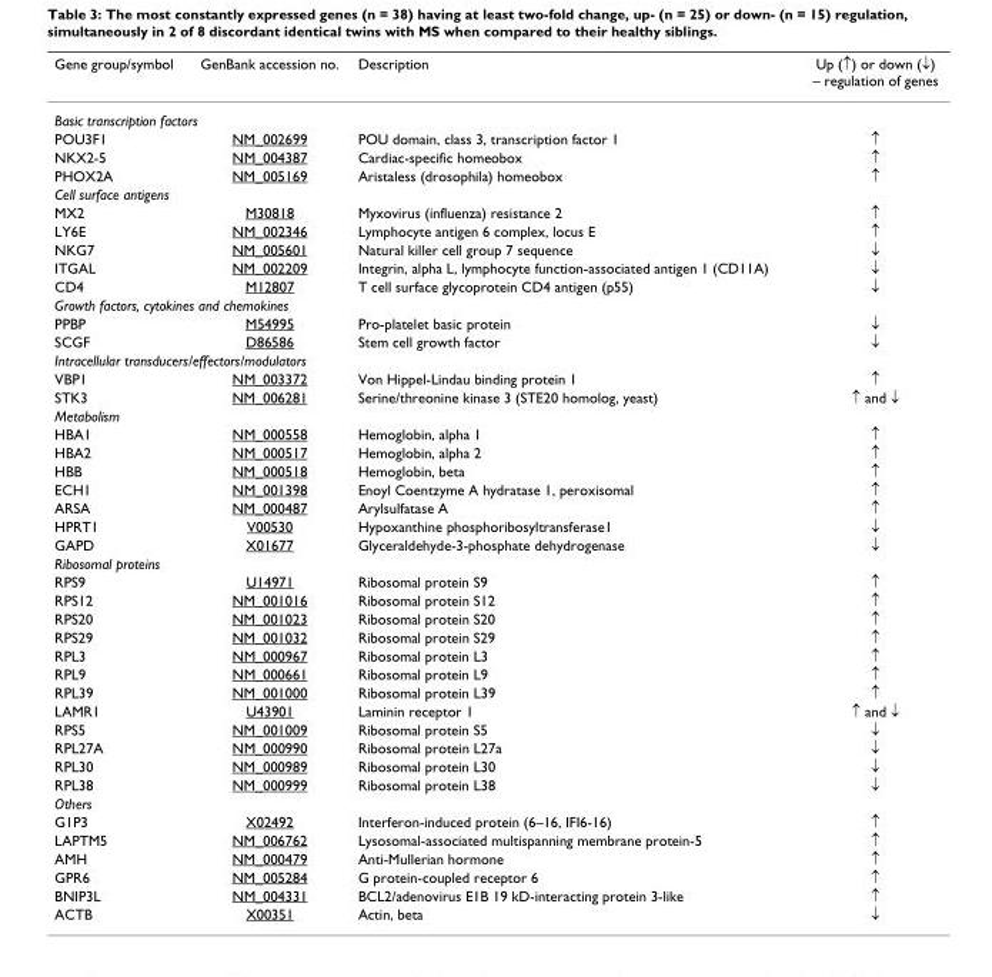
<table><thead><tr><td>Gene group/symbol</td><td>GenBank accession no.</td><td>Description</td><td>Up (↑) or down (↓) – regulation of genes</td></tr></thead><tbody><tr><td colspan="4">Basic transcription factors</td></tr><tr><td>POU3F1</td><td>NM_002699</td><td>POU domain, class 3, transcription factor 1</td><td>↑</td></tr><tr><td>NKX2-5</td><td>NM_004387</td><td>Cardiac-specific homeobox</td><td>↑</td></tr><tr><td>PHOX2A</td><td>NM_005169</td><td>Aristaless (drosophila) homeobox</td><td>↑</td></tr><tr><td colspan="4">Cell surface antigens</td></tr><tr><td>MX2</td><td>M30818</td><td>Myxovirus (influenza) resistance 2</td><td>↑</td></tr><tr><td>LY6E</td><td>NM_002346</td><td>Lymphocyte antigen 6 complex, locus E</td><td>↑</td></tr><tr><td>NKG7</td><td>NM_005601</td><td>Natural killer cell group 7 sequence</td><td>↓</td></tr><tr><td>ITGAL</td><td>NM_002209</td><td>Integrin, alpha L, lymphocyte function-associated antigen 1 (CD11A)</td><td>↓</td></tr><tr><td>CD4</td><td>M12807</td><td>T cell surface glycoprotein CD4 antigen (p55)</td><td>↓</td></tr><tr><td colspan="4">Growth factors, cytokines and chemokines</td></tr><tr><td>PPBP</td><td>M54995</td><td>Pro-platelet basic protein</td><td>↓</td></tr><tr><td>SCGF</td><td>D86586</td><td>Stem cell growth factor</td><td>↓</td></tr><tr><td colspan="4">Intracellular transducers/effectors/modulators</td></tr><tr><td>VBP1</td><td>NM_003372</td><td>Von Hippel-Lindau binding protein 1</td><td>↑</td></tr><tr><td>STK3</td><td>NM_006281</td><td>Serine/threonine kinase 3 (STE20 homolog, yeast)</td><td>↑ and ↓</td></tr><tr><td colspan="4">Metabolism</td></tr><tr><td>HBA1</td><td>NM_000558</td><td>Hemoglobin, alpha 1</td><td>↑</td></tr><tr><td>HBA2</td><td>NM_000517</td><td>Hemoglobin, alpha 2</td><td>↑</td></tr><tr><td>HBB</td><td>NM_000518</td><td>Hemoglobin, beta</td><td>↑</td></tr><tr><td>ECH1</td><td>NM_001398</td><td>Enoyl Coentzyme A hydratase 1, peroxisomal</td><td>↑</td></tr><tr><td>ARSA</td><td>NM_000487</td><td>Arylsulfatase A</td><td>↑</td></tr><tr><td>HPRT1</td><td>V00530</td><td>Hypoxanthine phosphoribosyltransferase1</td><td>↓</td></tr><tr><td>GAPD</td><td>X01677</td><td>Glyceraldehyde-3-phosphate dehydrogenase</td><td>↓</td></tr><tr><td colspan="4">Ribosomal proteins</td></tr><tr><td>RPS9</td><td>U14971</td><td>Ribosomal protein S9</td><td>↑</td></tr><tr><td>RPS12</td><td>NM_001016</td><td>Ribosomal protein S12</td><td>↑</td></tr><tr><td>RPS20</td><td>NM_001023</td><td>Ribosomal protein S20</td><td>↑</td></tr><tr><td>RPS29</td><td>NM_001032</td><td>Ribosomal protein S29</td><td>↑</td></tr><tr><td>RPL3</td><td>NM_000967</td><td>Ribosomal protein L3</td><td>↑</td></tr><tr><td>RPL9</td><td>NM_000661</td><td>Ribosomal protein L9</td><td>↑</td></tr><tr><td>RPL39</td><td>NM_001000</td><td>Ribosomal protein L39</td><td>↑</td></tr><tr><td>LAMR1</td><td>U43901</td><td>Laminin receptor 1</td><td>↑ and ↓</td></tr><tr><td>RPS5</td><td>NM_001009</td><td>Ribosomal protein S5</td><td>↓</td></tr><tr><td>RPL27A</td><td>NM_000990</td><td>Ribosomal protein L27a</td><td>↓</td></tr><tr><td>RPL30</td><td>NM_000989</td><td>Ribosomal protein L30</td><td>↓</td></tr><tr><td>RPL38</td><td>NM_000999</td><td>Ribosomal protein L38</td><td>↓</td></tr><tr><td colspan="4">Others</td></tr><tr><td>G1P3</td><td>X02492</td><td>Interferon-induced protein (6–16, IFI6-16)</td><td>↑</td></tr><tr><td>LAPTM5</td><td>NM_006762</td><td>Lysosomal-associated multispanning membrane protein-5</td><td>↑</td></tr><tr><td>AMH</td><td>NM_000479</td><td>Anti-Mullerian hormone</td><td>↑</td></tr><tr><td>GPR6</td><td>NM_005284</td><td>G protein-coupled receptor 6</td><td>↑</td></tr><tr><td>BNIP3L</td><td>NM_004331</td><td>BCL2/adenovirus E1B 19 kD-interacting protein 3-like</td><td>↑</td></tr><tr><td>ACTB</td><td>X00351</td><td>Actin, beta</td><td>↓</td></tr></tbody></table>